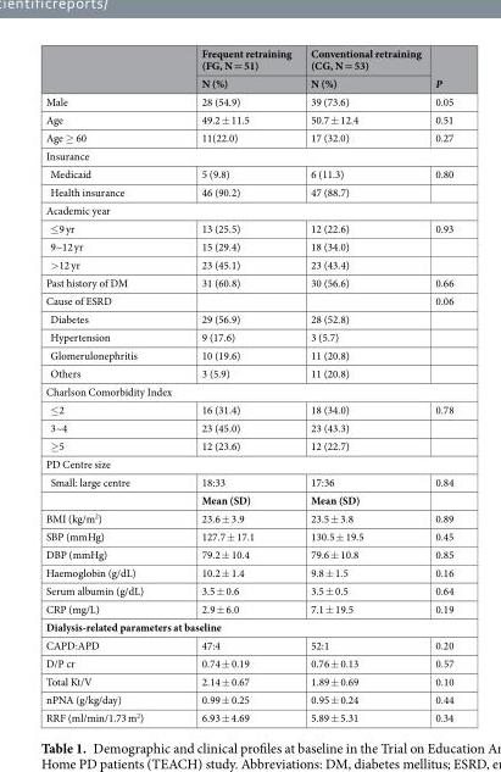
<table><thead><tr><td rowspan="2"></td><td rowspan="2">Frequent retraining (FG, N = 51) N (%)</td><td rowspan="2">Conventional retraining (CG, N = 53) N (%)</td><td rowspan="2">P</td></tr><tr></tr></thead><tbody><tr><td>Male</td><td>28 (54.9)</td><td>39 (73.6)</td><td>0.05</td></tr><tr><td>Age</td><td>49.2 ± 11.5</td><td>50.7 ± 12.4</td><td>0.51</td></tr><tr><td>Age ≥ 60</td><td>11(22.0)</td><td>17 (32.0)</td><td>0.27</td></tr><tr><td colspan="4">Insurance</td></tr><tr><td>Medicaid</td><td>5 (9.8)</td><td>6 (11.3)</td><td>0.80</td></tr><tr><td>Health insurance</td><td>46 (90.2)</td><td>47 (88.7)</td><td></td></tr><tr><td colspan="4">Academic year</td></tr><tr><td>≤9 yr</td><td>13 (25.5)</td><td>12 (22.6)</td><td>0.93</td></tr><tr><td>9~12 yr</td><td>15 (29.4)</td><td>18 (34.0)</td><td></td></tr><tr><td>&gt;12 yr</td><td>23 (45.1)</td><td>23 (43.4)</td><td></td></tr><tr><td>Past history of DM</td><td>31 (60.8)</td><td>30 (56.6)</td><td>0.66</td></tr><tr><td>Cause of ESRD</td><td></td><td></td><td>0.06</td></tr><tr><td>Diabetes</td><td>29 (56.9)</td><td>28 (52.8)</td><td></td></tr><tr><td>Hypertension</td><td>9 (17.6)</td><td>3 (5.7)</td><td></td></tr><tr><td>Glomerulonephritis</td><td>10 (19.6)</td><td>11 (20.8)</td><td></td></tr><tr><td>Others</td><td>3 (5.9)</td><td>11 (20.8)</td><td></td></tr><tr><td colspan="4">Charlson Comorbidity Index</td></tr><tr><td>≤2</td><td>16 (31.4)</td><td>18 (34.0)</td><td>0.78</td></tr><tr><td>3~4</td><td>23 (45.0)</td><td>23 (43.3)</td><td></td></tr><tr><td>≥5</td><td>12 (23.6)</td><td>12 (22.7)</td><td></td></tr><tr><td colspan="4">PD Centre size</td></tr><tr><td rowspan="2">Small: large centre</td><td>18:33</td><td>17:36</td><td>0.84</td></tr><tr><td>Mean (SD)</td><td>Mean (SD)</td><td></td></tr><tr><td>BMI (kg/m<sup>2</sup>)</td><td>23.6 ± 3.9</td><td>23.5 ± 3.8</td><td>0.89</td></tr><tr><td>SBP (mmHg)</td><td>127.7 ± 17.1</td><td>130.5 ± 19.5</td><td>0.45</td></tr><tr><td>DBP (mmHg)</td><td>79.2 ± 10.4</td><td>79.6 ± 10.8</td><td>0.85</td></tr><tr><td>Haemoglobin (g/dL)</td><td>10.2 ± 1.4</td><td>9.8 ± 1.5</td><td>0.16</td></tr><tr><td>Serum albumin (g/dL)</td><td>3.5 ± 0.6</td><td>3.5 ± 0.5</td><td>0.64</td></tr><tr><td>CRP (mg/L)</td><td>2.9 ± 6.0</td><td>7.1 ± 19.5</td><td>0.19</td></tr><tr><td colspan="4">Dialysis-related parameters at baseline</td></tr><tr><td>CAPD:APD</td><td>47:4</td><td>52:1</td><td>0.20</td></tr><tr><td>D/P cr</td><td>0.74 ± 0.19</td><td>0.76 ± 0.13</td><td>0.57</td></tr><tr><td>Total Kt/V</td><td>2.14 ± 0.67</td><td>1.89 ± 0.69</td><td>0.10</td></tr><tr><td>nPNA (g/kg/day)</td><td>0.99 ± 0.25</td><td>0.95 ± 0.24</td><td>0.44</td></tr><tr><td>RRF (ml/min/1.73 m<sup>2</sup>)</td><td>6.93 ± 4.69</td><td>5.89 ± 5.31</td><td>0.34</td></tr></tbody></table>